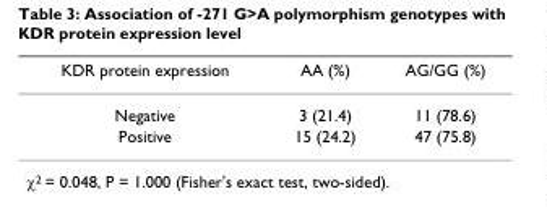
<table><thead><tr><td>KDR protein expression</td><td>AA (%)</td><td>AG/GG (%)</td></tr></thead><tbody><tr><td>Negative</td><td>3 (21.4)</td><td>11 (78.6)</td></tr><tr><td>Positive</td><td>15 (24.2)</td><td>47 (75.8)</td></tr></tbody></table>